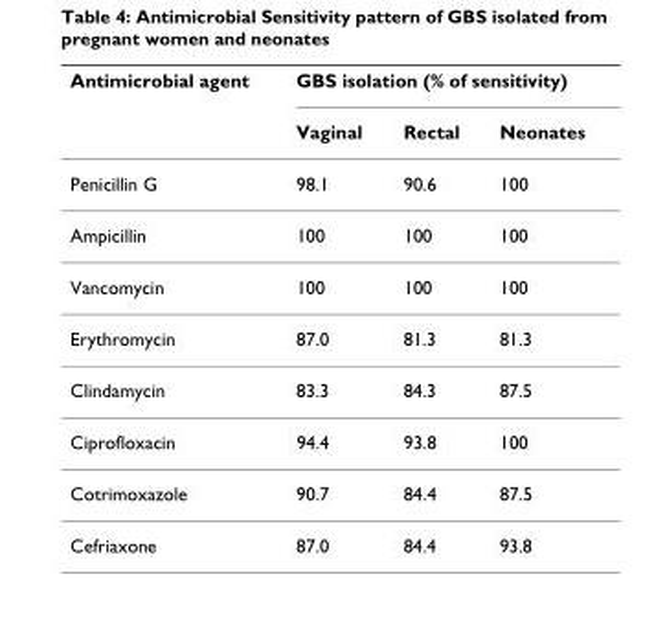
<table><thead><tr><td rowspan="2">Antimicrobial agent</td><td colspan="3">GBS isolation (% of sensitivity)</td></tr><tr><td>Vaginal</td><td>Rectal</td><td>Neonates</td></tr></thead><tbody><tr><td>Penicillin G</td><td>98.1</td><td>90.6</td><td>100</td></tr><tr><td>Ampicillin</td><td>100</td><td>100</td><td>100</td></tr><tr><td>Vancomycin</td><td>100</td><td>100</td><td>100</td></tr><tr><td>Erythromycin</td><td>87.0</td><td>81.3</td><td>81.3</td></tr><tr><td>Clindamycin</td><td>83.3</td><td>84.3</td><td>87.5</td></tr><tr><td>Ciprofloxacin</td><td>94.4</td><td>93.8</td><td>100</td></tr><tr><td>Cotrimoxazole</td><td>90.7</td><td>84.4</td><td>87.5</td></tr><tr><td>Cefriaxone</td><td>87.0</td><td>84.4</td><td>93.8</td></tr></tbody></table>